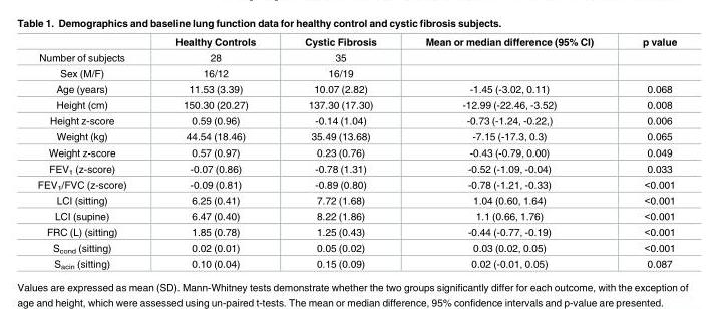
<table><thead><tr><td></td><td>Healthy Controls</td><td>Cystic Fibrosis</td><td>Mean or median difference (95% CI)</td><td>p value</td></tr></thead><tbody><tr><td>Number of subjects</td><td>28</td><td>35</td><td></td><td></td></tr><tr><td>Sex (M/F)</td><td>16/12</td><td>16/19</td><td></td><td></td></tr><tr><td>Age (years)</td><td>11.53 (3.39)</td><td>10.07 (2.82)</td><td>-1.45 (-3.02, 0.11)</td><td>0.068</td></tr><tr><td>Height (cm)</td><td>150.30 (20.27)</td><td>137.30 (17.30)</td><td>-12.99 (-22.46, -3.52)</td><td>0.008</td></tr><tr><td>Height z-score</td><td>0.59 (0.96)</td><td>-0.14 (1.04)</td><td>-0.73 (-1.24, -0.22,)</td><td>0.006</td></tr><tr><td>Weight (kg)</td><td>44.54 (18.46)</td><td>35.49 (13.68)</td><td>-7.15 (-17.3, 0.3)</td><td>0.065</td></tr><tr><td>Weight z-score</td><td>0.57 (0.97)</td><td>0.23 (0.76)</td><td>-0.43 (-0.79, 0.00)</td><td>0.049</td></tr><tr><td>FEV<sub>1</sub> (z-score)</td><td>-0.07 (0.86)</td><td>-0.78 (1.31)</td><td>-0.52 (-1.09, -0.04)</td><td>0.033</td></tr><tr><td>FEV<sub>1</sub>/FVC (z-score)</td><td>-0.09 (0.81)</td><td>-0.89 (0.80)</td><td>-0.78 (-1.21, -0.33)</td><td>&lt;0.001</td></tr><tr><td>LCI (sitting)</td><td>6.25 (0.41)</td><td>7.72 (1.68)</td><td>1.04 (0.60, 1.64)</td><td>&lt;0.001</td></tr><tr><td>LCI (supine)</td><td>6.47 (0.40)</td><td>8.22 (1.86)</td><td>1.1 (0.66, 1.76)</td><td>&lt;0.001</td></tr><tr><td>FRC (L) (sitting)</td><td>1.85 (0.78)</td><td>1.25 (0.43)</td><td>-0.44 (-0.77, -0.19)</td><td>&lt;0.001</td></tr><tr><td>S<sub>cond</sub> (sitting)</td><td>0.02 (0.01)</td><td>0.05 (0.02)</td><td>0.03 (0.02, 0.05)</td><td>&lt;0.001</td></tr><tr><td>S<sub>acin</sub> (sitting)</td><td>0.10 (0.04)</td><td>0.15 (0.09)</td><td>0.02 (-0.01, 0.05)</td><td>0.087</td></tr></tbody></table>